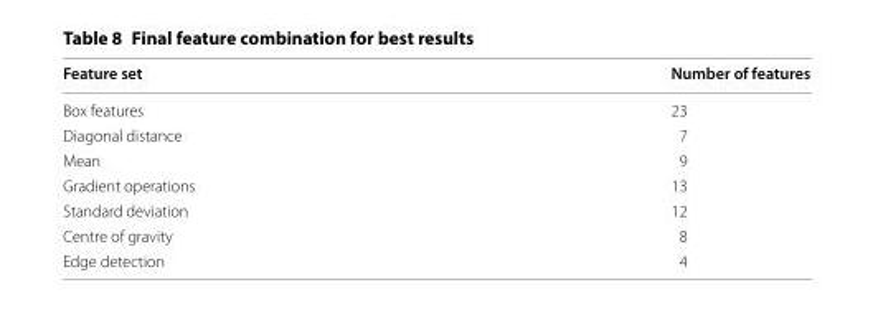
<table><thead><tr><td>Feature set</td><td>Number of features</td></tr></thead><tbody><tr><td>Box features</td><td>23</td></tr><tr><td>Diagonal distance</td><td>7</td></tr><tr><td>Mean</td><td>9</td></tr><tr><td>Gradient operations</td><td>13</td></tr><tr><td>Standard deviation</td><td>12</td></tr><tr><td>Centre of gravity</td><td>8</td></tr><tr><td>Edge detection</td><td>4</td></tr></tbody></table>